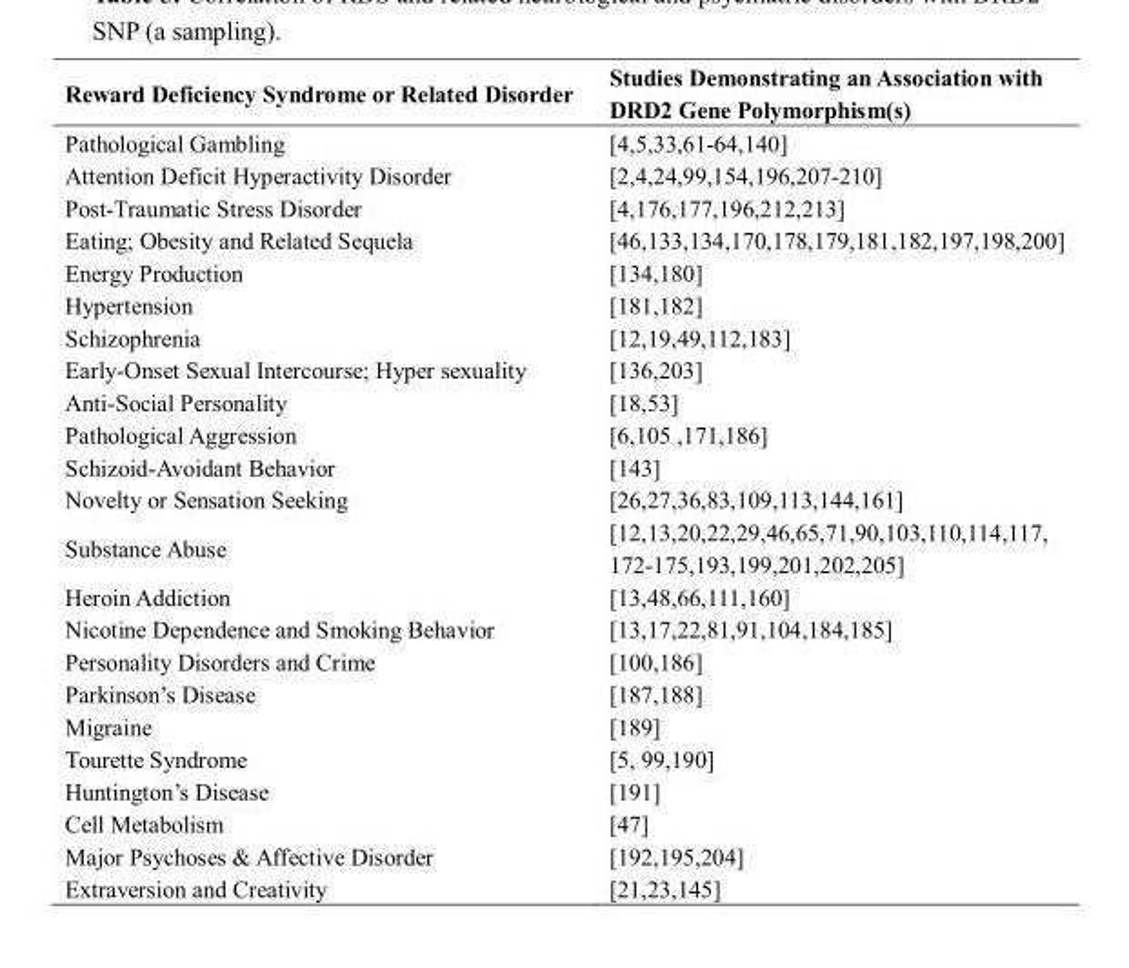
<table><thead><tr><td>Reward Deficiency Syndrome or Related Disorder</td><td>Studies Demonstrating an Association with DRD2 Gene Polymorphism(s)</td></tr></thead><tbody><tr><td>Pathological Gambling</td><td>[4,5,33,61-64,140]</td></tr><tr><td>Attention Deficit Hyperactivity Disorder</td><td>[2,4,24,99,154,196,207-210]</td></tr><tr><td>Post-Traumatic Stress Disorder</td><td>[4,176,177,196,212,213]</td></tr><tr><td>Eating; Obesity and Related Sequela</td><td>[46,133,134,170,178,179,181,182,197,198,200]</td></tr><tr><td>Energy Production</td><td>[134,180]</td></tr><tr><td>Hypertension</td><td>[181,182]</td></tr><tr><td>Schizophrenia</td><td>[12,19,49,112,183]</td></tr><tr><td>Early-Onset Sexual Intercourse; Hyper sexuality</td><td>[136,203]</td></tr><tr><td>Anti-Social Personality</td><td>[18,53]</td></tr><tr><td>Pathological Aggression</td><td>[6,105 ,171,186]</td></tr><tr><td>Schizoid-Avoidant Behavior</td><td>[143]</td></tr><tr><td>Novelty or Sensation Seeking</td><td>[26,27,36,83,109,113,144,161]</td></tr><tr><td>Substance Abuse</td><td>[12,13,20,22,29,46,65,71,90,103,110,114,117, 172-175,193,199,201,202,205]</td></tr><tr><td>Heroin Addiction</td><td>[13,48,66,111,160]</td></tr><tr><td>Nicotine Dependence and Smoking Behavior</td><td>[13,17,22,81,91,104,184,185]</td></tr><tr><td>Personality Disorders and Crime</td><td>[100,186]</td></tr><tr><td>Parkinson’s Disease</td><td>[187,188]</td></tr><tr><td>Migraine</td><td>[189]</td></tr><tr><td>Tourette Syndrome</td><td>[5, 99,190]</td></tr><tr><td>Huntington’s Disease</td><td>[191]</td></tr><tr><td>Cell Metabolism</td><td>[47]</td></tr><tr><td>Major Psychoses &amp; Affective Disorder</td><td>[192,195,204]</td></tr><tr><td>Extraversion and Creativity</td><td>[21,23,145]</td></tr></tbody></table>